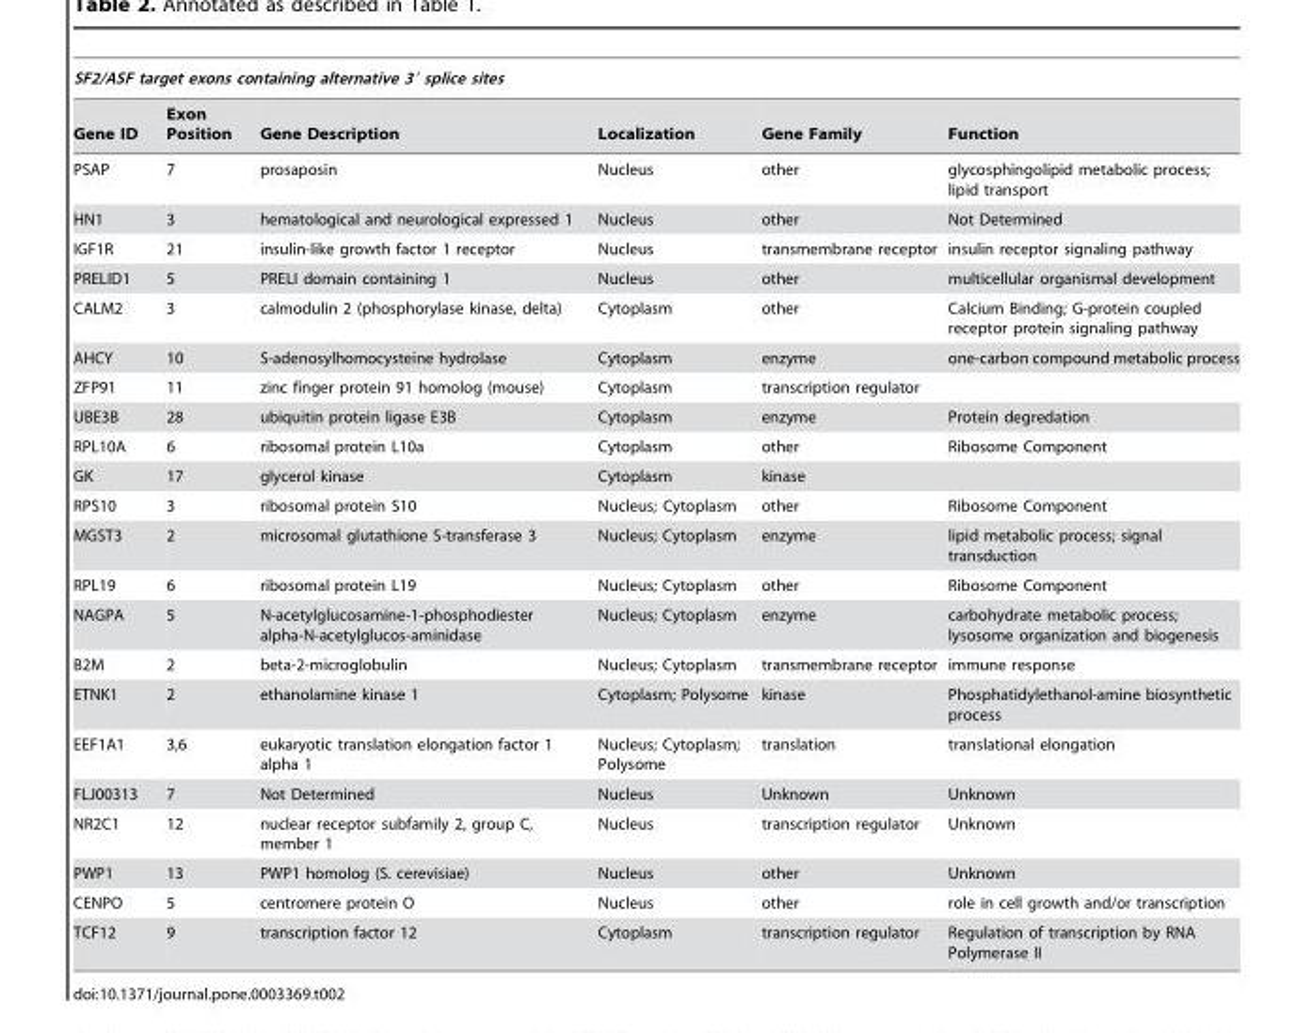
<table><thead><tr><td colspan="6">SF2/ASF target exons containing alternative 3′ splice sites</td></tr><tr><td>Gene ID</td><td>Exon Position</td><td>Gene Description</td><td>Localization</td><td>Gene Family</td><td>Function</td></tr></thead><tbody><tr><td>PSAP</td><td>7</td><td>prosaposin</td><td>Nucleus</td><td>other</td><td>glycosphingolipid metabolic process; lipid transport</td></tr><tr><td>HN1</td><td>3</td><td>hematological and neurological expressed 1</td><td>Nucleus</td><td>other</td><td>Not Determined</td></tr><tr><td>IGF1R</td><td>21</td><td>insulin-like growth factor 1 receptor</td><td>Nucleus</td><td>transmembrane receptor</td><td>insulin receptor signaling pathway</td></tr><tr><td>PRELID1</td><td>5</td><td>PRELI domain containing 1</td><td>Nucleus</td><td>other</td><td>multicellular organismal development</td></tr><tr><td>CALM2</td><td>3</td><td>calmodulin 2 (phosphorylase kinase, delta)</td><td>Cytoplasm</td><td>other</td><td>Calcium Binding; G-protein coupled receptor protein signaling pathway</td></tr><tr><td>AHCY</td><td>10</td><td>S-adenosylhomocysteine hydrolase</td><td>Cytoplasm</td><td>enzyme</td><td>one-carbon compound metabolic process</td></tr><tr><td>ZFP91</td><td>11</td><td>zinc finger protein 91 homolog (mouse)</td><td>Cytoplasm</td><td>transcription regulator</td><td></td></tr><tr><td>UBE3B</td><td>28</td><td>ubiquitin protein ligase E3B</td><td>Cytoplasm</td><td>enzyme</td><td>Protein degredation</td></tr><tr><td>RPL10A</td><td>6</td><td>ribosomal protein L10a</td><td>Cytoplasm</td><td>other</td><td>Ribosome Component</td></tr><tr><td>GK</td><td>17</td><td>glycerol kinase</td><td>Cytoplasm</td><td>kinase</td><td></td></tr><tr><td>RPS10</td><td>3</td><td>ribosomal protein S10</td><td>Nucleus; Cytoplasm</td><td>other</td><td>Ribosome Component</td></tr><tr><td>MGST3</td><td>2</td><td>microsomal glutathione S-transferase 3</td><td>Nucleus; Cytoplasm</td><td>enzyme</td><td>lipid metabolic process; signal transduction</td></tr><tr><td>RPL19</td><td>6</td><td>ribosomal protein L19</td><td>Nucleus; Cytoplasm</td><td>other</td><td>Ribosome Component</td></tr><tr><td>NAGPA</td><td>5</td><td>N-acetylglucosamine-1-phosphodiester alpha-N-acetylglucos-aminidase</td><td>Nucleus; Cytoplasm</td><td>enzyme</td><td>carbohydrate metabolic process; lysosome organization and biogenesis</td></tr><tr><td>B2M</td><td>2</td><td>beta-2-microglobulin</td><td>Nucleus; Cytoplasm</td><td>transmembrane receptor</td><td>immune response</td></tr><tr><td>ETNK1</td><td>2</td><td>ethanolamine kinase 1</td><td>Cytoplasm; Polysome</td><td>kinase</td><td>Phosphatidylethanol-amine biosynthetic process</td></tr><tr><td>EEF1A1</td><td>3,6</td><td>eukaryotic translation elongation factor 1 alpha 1</td><td>Nucleus; Cytoplasm; Polysome</td><td>translation</td><td>translational elongation</td></tr><tr><td>FLJ00313</td><td>7</td><td>Not Determined</td><td>Nucleus</td><td>Unknown</td><td>Unknown</td></tr><tr><td>NR2C1</td><td>12</td><td>nuclear receptor subfamily 2, group C, member 1</td><td>Nucleus</td><td>transcription regulator</td><td>Unknown</td></tr><tr><td>PWP1</td><td>13</td><td>PWP1 homolog (S. cerevisiae)</td><td>Nucleus</td><td>other</td><td>Unknown</td></tr><tr><td>CENPO</td><td>5</td><td>centromere protein O</td><td>Nucleus</td><td>other</td><td>role in cell growth and/or transcription</td></tr><tr><td>TCF12</td><td>9</td><td>transcription factor 12</td><td>Cytoplasm</td><td>transcription regulator</td><td>Regulation of transcription by RNA Polymerase II</td></tr></tbody></table>